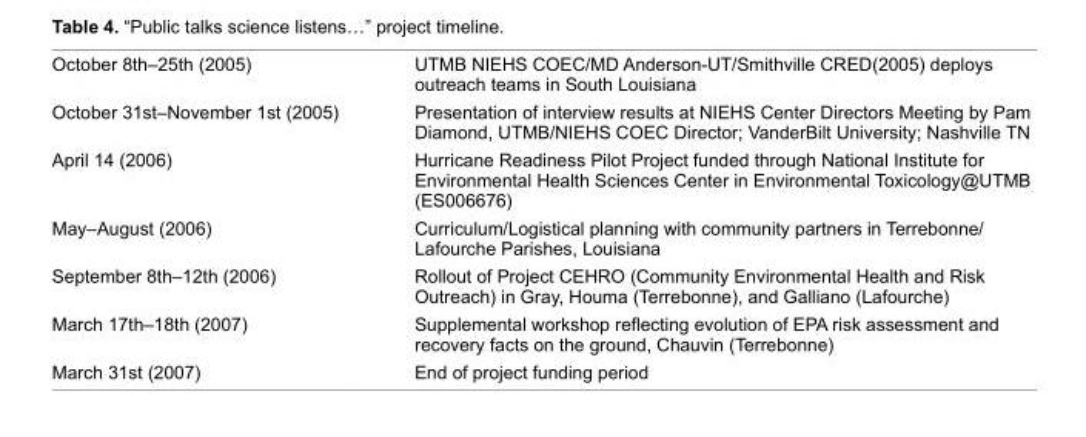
<table><tbody><tr><td>october 8th–25th (2005)</td><td>UTMB NIEHs CoEC/MD Anderson-UT/smithville CrED(2005) deploys outreach teams in south Louisiana</td></tr><tr><td>october 31st–November 1st (2005)</td><td>presentation of interview results at NIEHs Center Directors Meeting by pam Diamond, UTMB/NIEHs CoEC Director; VanderBilt University; Nashville TN</td></tr><tr><td>April 14 (2006)</td><td>Hurricane readiness pilot project funded through National Institute for Environmental Health sciences Center in Environmental Toxicology@UTMB (Es006676)</td></tr><tr><td>May–August (2006)</td><td>Curriculum/Logistical planning with community partners in Terrebonne/ Lafourche parishes, Louisiana</td></tr><tr><td>september 8th–12th (2006)</td><td>rollout of project CEHro (Community Environmental Health and risk outreach) in Gray, Houma (Terrebonne), and Galliano (Lafourche)</td></tr><tr><td>March 17th–18th (2007)</td><td>Supplemental workshop reflecting evolution of EPA risk assessment and recovery facts on the ground, Chauvin (Terrebonne)</td></tr><tr><td>March 31st (2007)</td><td>End of project funding period</td></tr></tbody></table>